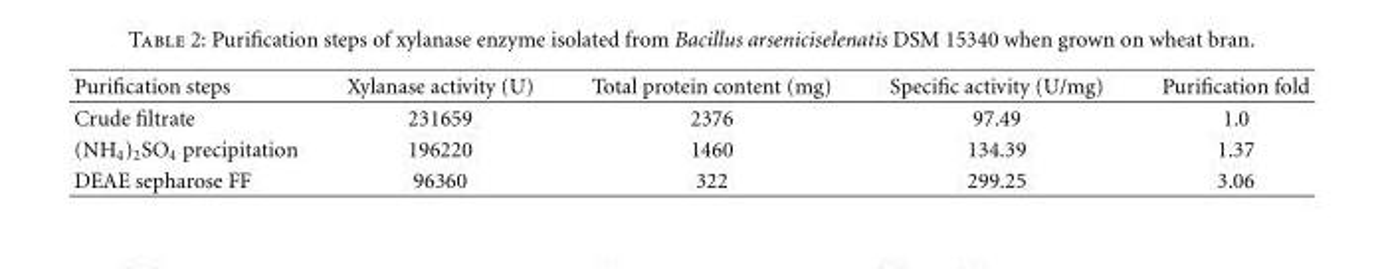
<table><thead><tr><td>Purification steps</td><td>Xylanase activity (U)</td><td>Total protein content (mg)</td><td>Specific activity (U/mg)</td><td>Purification fold</td></tr></thead><tbody><tr><td>Crude filtrate</td><td>231659</td><td>2376</td><td>97.49</td><td>1.0</td></tr><tr><td>(NH<sub>4</sub>)<sub>2</sub>SO<sub>4</sub> precipitation</td><td>196220</td><td>1460</td><td>134.39</td><td>1.37</td></tr><tr><td>DEAE sepharose FF</td><td>96360</td><td>322</td><td>299.25</td><td>3.06</td></tr></tbody></table>